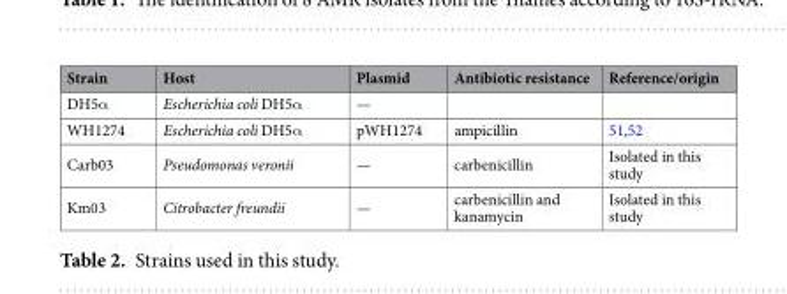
<table><thead><tr><td>Strain</td><td>Host</td><td>Plasmid</td><td>Antibiotic resistance</td><td>Reference/origin</td></tr></thead><tbody><tr><td>DH5α</td><td>Escherichia coli DH5α</td><td>—</td><td></td><td></td></tr><tr><td>WH1274</td><td>Escherichia coli DH5α</td><td>pWH1274</td><td>ampicillin</td><td>51,52</td></tr><tr><td>Carb03</td><td>Pseudomonas veronii</td><td>—</td><td>carbenicillin</td><td>Isolated in this study</td></tr><tr><td>Km03</td><td>Citrobacter freundii</td><td>—</td><td>carbenicillin and kanamycin</td><td>Isolated in this study</td></tr></tbody></table>